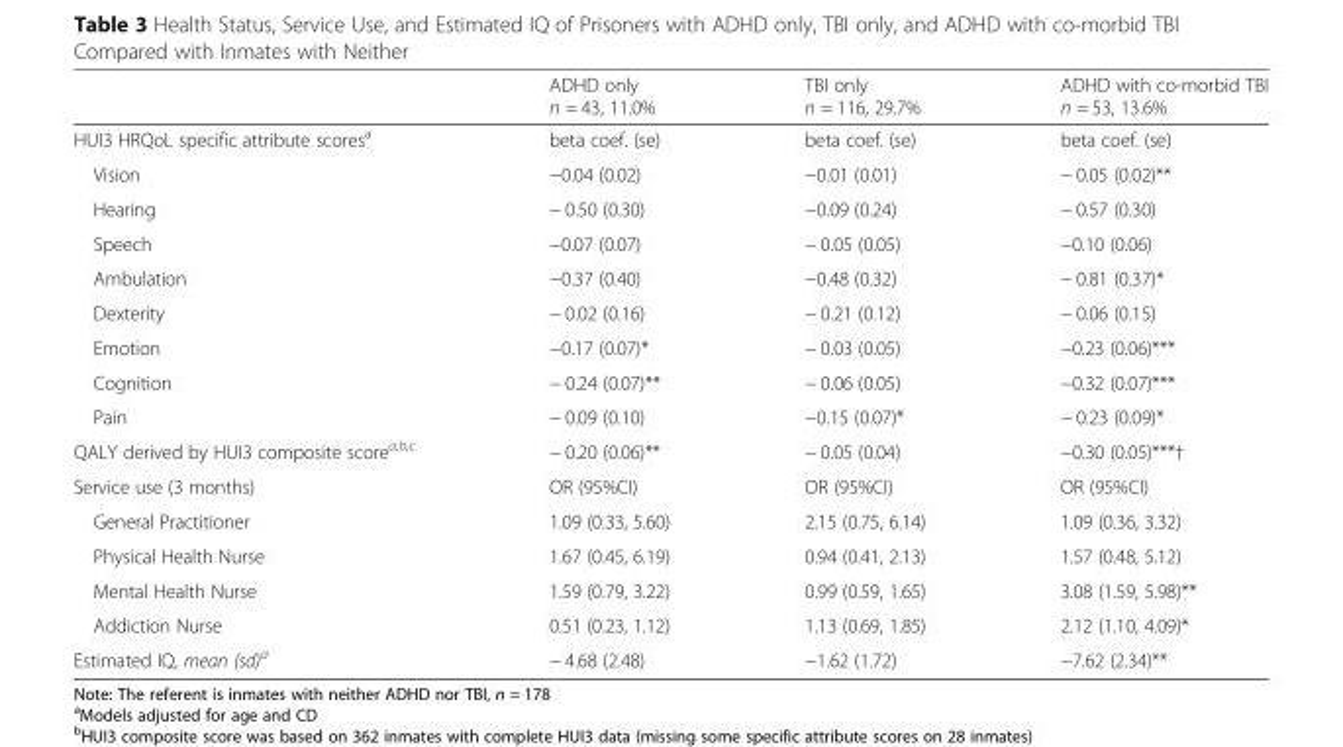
<table><thead><tr><td></td><td>ADHD only n = 43, 11.0%</td><td>TBI only n = 116, 29.7%</td><td>ADHD with co-morbid TBI n = 53, 13.6%</td></tr></thead><tbody><tr><td>HUI3 HRQoL specific attribute scores<sup>a</sup></td><td>beta coef. (se)</td><td>beta coef. (se)</td><td>beta coef. (se)</td></tr><tr><td>Vision</td><td>−0.04 (0.02)</td><td>−0.01 (0.01)</td><td>− 0.05 (0.02)**</td></tr><tr><td>Hearing</td><td>− 0.50 (0.30)</td><td>−0.09 (0.24)</td><td>− 0.57 (0.30)</td></tr><tr><td>Speech</td><td>−0.07 (0.07)</td><td>− 0.05 (0.05)</td><td>−0.10 (0.06)</td></tr><tr><td>Ambulation</td><td>−0.37 (0.40)</td><td>−0.48 (0.32)</td><td>− 0.81 (0.37)*</td></tr><tr><td>Dexterity</td><td>− 0.02 (0.16)</td><td>− 0.21 (0.12)</td><td>− 0.06 (0.15)</td></tr><tr><td>Emotion</td><td>−0.17 (0.07)*</td><td>− 0.03 (0.05)</td><td>−0.23 (0.06)***</td></tr><tr><td>Cognition</td><td>− 0.24 (0.07)**</td><td>− 0.06 (0.05)</td><td>−0.32 (0.07)***</td></tr><tr><td>Pain</td><td>− 0.09 (0.10)</td><td>−0.15 (0.07)*</td><td>− 0.23 (0.09)*</td></tr><tr><td>QALY derived by HUI3 composite score<sup>a,b,c</sup></td><td>− 0.20 (0.06)**</td><td>− 0.05 (0.04)</td><td>−0.30 (0.05)***†</td></tr><tr><td>Service use (3 months)</td><td>OR (95%CI)</td><td>OR (95%CI)</td><td>OR (95%CI)</td></tr><tr><td>General Practitioner</td><td>1.09 (0.33, 5.60)</td><td>2.15 (0.75, 6.14)</td><td>1.09 (0.36, 3.32)</td></tr><tr><td>Physical Health Nurse</td><td>1.67 (0.45, 6.19)</td><td>0.94 (0.41, 2.13)</td><td>1.57 (0.48, 5.12)</td></tr><tr><td>Mental Health Nurse</td><td>1.59 (0.79, 3.22)</td><td>0.99 (0.59, 1.65)</td><td>3.08 (1.59, 5.98)**</td></tr><tr><td>Addiction Nurse</td><td>0.51 (0.23, 1.12)</td><td>1.13 (0.69, 1.85)</td><td>2.12 (1.10, 4.09)*</td></tr><tr><td>Estimated IQ, mean (sd)<sup>a</sup></td><td>− 4.68 (2.48)</td><td>−1.62 (1.72)</td><td>−7.62 (2.34)**</td></tr></tbody></table>